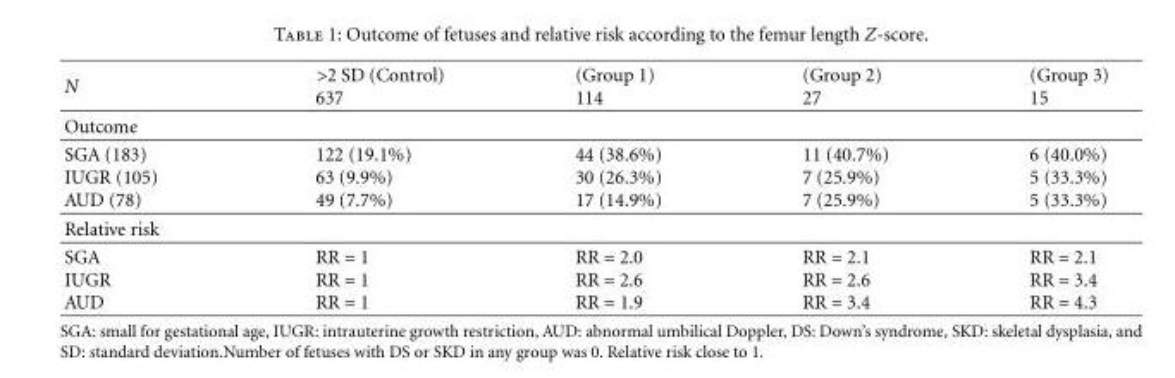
<table><thead><tr><td>N</td><td>&gt;2 SD (Control) 637</td><td>(Group 1) 114</td><td>(Group 2) 27</td><td>(Group 3) 15</td></tr></thead><tbody><tr><td colspan="5">Outcome</td></tr><tr><td>SGA (183) IUGR (105) AUD (78)</td><td>122 (19.1%) 63 (9.9%) 49 (7.7%)</td><td>44 (38.6%) 30 (26.3%) 17 (14.9%)</td><td>11 (40.7%) 7 (25.9%) 7 (25.9%)</td><td>6 (40.0%) 5 (33.3%) 5 (33.3%)</td></tr><tr><td colspan="5">Relative risk</td></tr><tr><td>SGA IUGR AUD</td><td>RR = 1 RR = 1 RR = 1</td><td>RR = 2.0 RR = 2.6 RR = 1.9</td><td>RR = 2.1 RR = 2.6 RR = 3.4</td><td>RR = 2.1 RR = 3.4 RR = 4.3</td></tr></tbody></table>